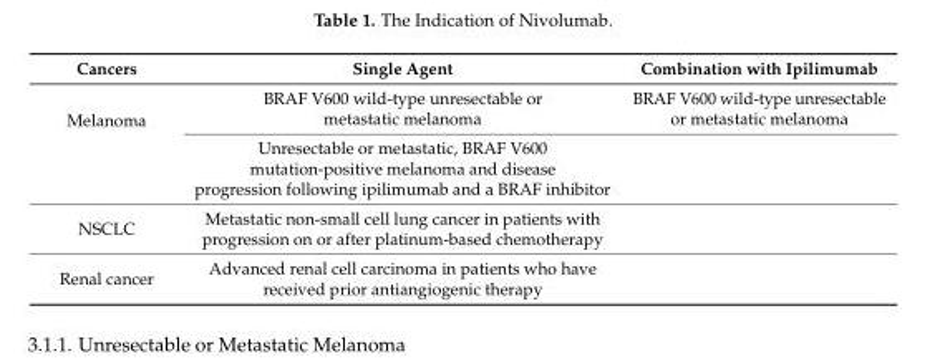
<table><thead><tr><td>Cancers</td><td>Single Agent</td><td>Combination with Ipilimumab</td></tr></thead><tbody><tr><td rowspan="2">Melanoma</td><td>BRAF V600 wild-type unresectable or metastatic melanoma</td><td>BRAF V600 wild-type unresectable or metastatic melanoma</td></tr><tr><td>Unresectable or metastatic, BRAF V600 mutation-positive melanoma and disease progression following ipilimumab and a BRAF inhibitor</td><td></td></tr><tr><td>NSCLC</td><td>Metastatic non-small cell lung cancer in patients with progression on or after platinum-based chemotherapy</td><td></td></tr><tr><td>Renal cancer</td><td>Advanced renal cell carcinoma in patients who have received prior antiangiogenic therapy</td><td></td></tr></tbody></table>